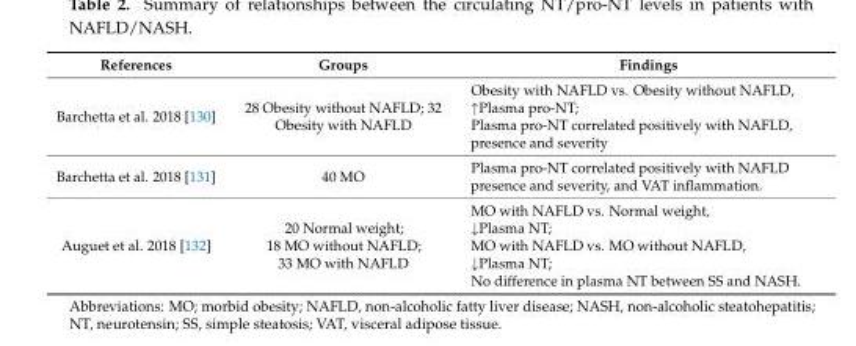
<table><thead><tr><td>References</td><td>Groups</td><td>Findings</td></tr></thead><tbody><tr><td>Barchetta et al. 2018 [130]</td><td>28 Obesity without NAFLD; 32 Obesity with NAFLD</td><td>Obesity with NAFLD vs. Obesity without NAFLD, ↑Plasma pro-NT; Plasma pro-NT correlated positively with NAFLD, presence and severity</td></tr><tr><td>Barchetta et al. 2018 [131]</td><td>40 MO</td><td>Plasma pro-NT correlated positively with NAFLD presence and severity, and VAT inflammation.</td></tr><tr><td>Auguet et al. 2018 [132]</td><td>20 Normal weight; 18 MO without NAFLD; 33 MO with NAFLD</td><td>MO with NAFLD vs. Normal weight, ↓Plasma NT; MO with NAFLD vs. MO without NAFLD, ↓Plasma NT; No difference in plasma NT between SS and NASH.</td></tr></tbody></table>